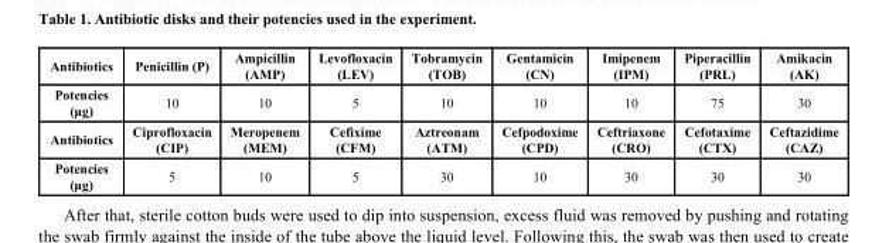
<table><thead><tr><td>Antibiotics</td><td>Penicillin (P)</td><td>Ampicillin (AMP)</td><td>Levofloxacin (LEV)</td><td>Tobramycin (TOB)</td><td>Gentamicin (CN)</td><td>Imipenem (IPM)</td><td>Piperacillin (PRL)</td><td>Amikacin (AK)</td></tr></thead><tbody><tr><td>Potencies (µg)</td><td>10</td><td>10</td><td>5</td><td>10</td><td>10</td><td>10</td><td>75</td><td>30</td></tr><tr><td>Antibiotics</td><td>Ciprofloxacin (CIP)</td><td>Meropenem (MEM)</td><td>Cefixime (CFM)</td><td>Aztreonam (ATM)</td><td>Cefpodoxime (CPD)</td><td>Ceftriaxone (CRO)</td><td>Cefotaxime (CTX)</td><td>Ceftazidime (CAZ)</td></tr><tr><td>Potencies (µg)</td><td>5</td><td>10</td><td>5</td><td>30</td><td>10</td><td>30</td><td>30</td><td>30</td></tr></tbody></table>